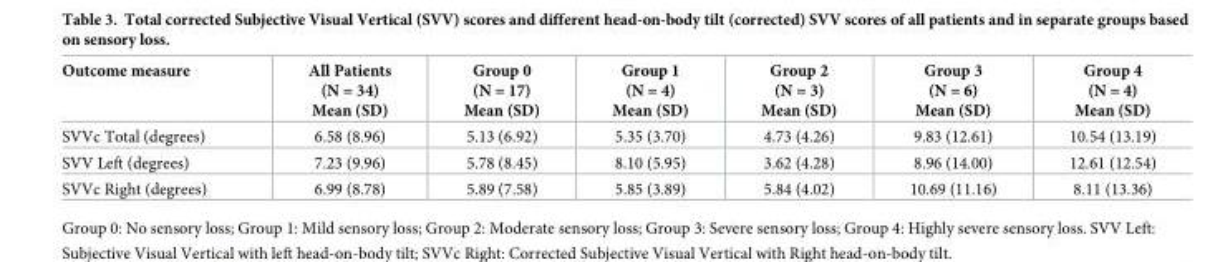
<table><thead><tr><td>Outcome measure</td><td>All Patients (N = 34) Mean (SD)</td><td>Group 0 (N = 17) Mean (SD)</td><td>Group 1 (N = 4) Mean (SD)</td><td>Group 2 (N = 3) Mean (SD)</td><td>Group 3 (N = 6) Mean (SD)</td><td>Group 4 (N = 4) Mean (SD)</td></tr></thead><tbody><tr><td>SVVc Total (degrees)</td><td>6.58 (8.96)</td><td>5.13 (6.92)</td><td>5.35 (3.70)</td><td>4.73 (4.26)</td><td>9.83 (12.61)</td><td>10.54 (13.19)</td></tr><tr><td>SVV Left (degrees)</td><td>7.23 (9.96)</td><td>5.78 (8.45)</td><td>8.10 (5.95)</td><td>3.62 (4.28)</td><td>8.96 (14.00)</td><td>12.61 (12.54)</td></tr><tr><td>SVVc Right (degrees)</td><td>6.99 (8.78)</td><td>5.89 (7.58)</td><td>5.85 (3.89)</td><td>5.84 (4.02)</td><td>10.69 (11.16)</td><td>8.11 (13.36)</td></tr></tbody></table>